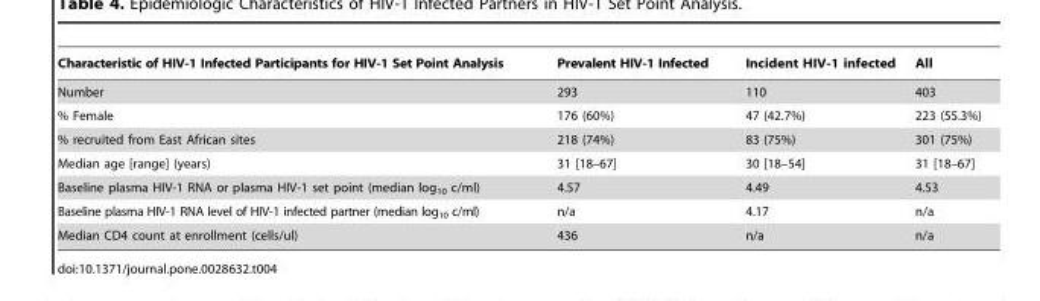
<table><thead><tr><td>Characteristic of HIV-1 Infected Participants for HIV-1 Set Point Analysis</td><td>Prevalent HIV-1 Infected</td><td>Incident HIV-1 infected</td><td>All</td></tr></thead><tbody><tr><td>Number</td><td>293</td><td>110</td><td>403</td></tr><tr><td>% Female</td><td>176 (60%)</td><td>47 (42.7%)</td><td>223 (55.3%)</td></tr><tr><td>% recruited from East African sites</td><td>218 (74%)</td><td>83 (75%)</td><td>301 (75%)</td></tr><tr><td>Median age [range] (years)</td><td>31 [18–67]</td><td>30 [18–54]</td><td>31 [18–67]</td></tr><tr><td>Baseline plasma HIV-1 RNA or plasma HIV-1 set point (median log<sub>10</sub> c/ml)</td><td>4.57</td><td>4.49</td><td>4.53</td></tr><tr><td>Baseline plasma HIV-1 RNA level of HIV-1 infected partner (median log<sub>10</sub> c/ml)</td><td>n/a</td><td>4.17</td><td>n/a</td></tr><tr><td>Median CD4 count at enrollment (cells/ul)</td><td>436</td><td>n/a</td><td>n/a</td></tr></tbody></table>